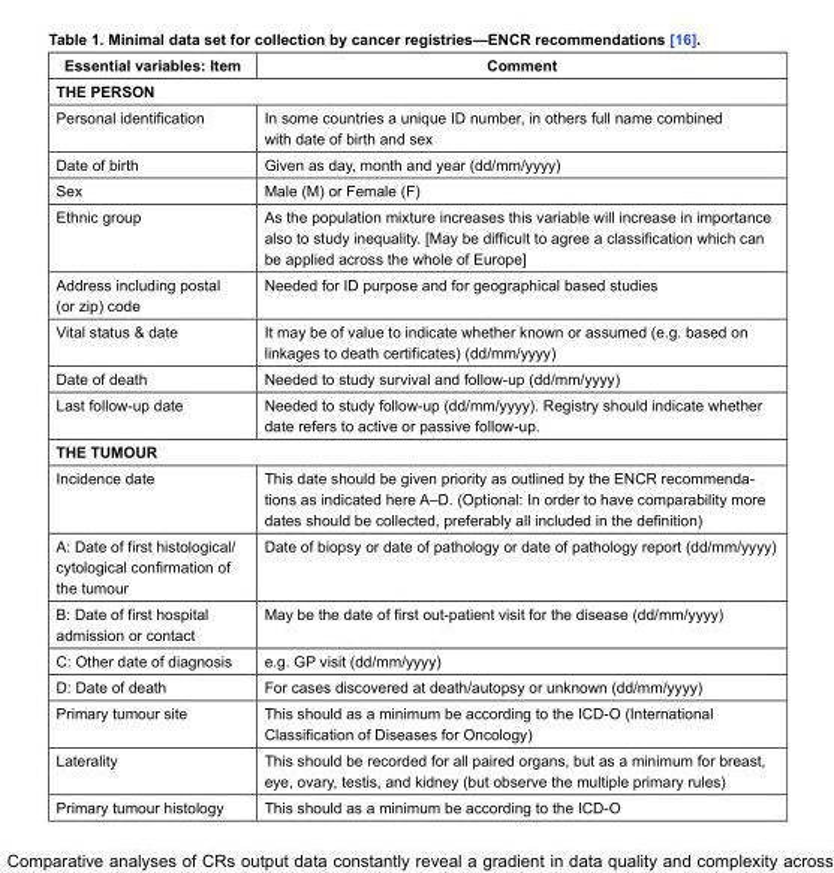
<table><thead><tr><td>Essential variables: Item</td><td>Comment</td></tr></thead><tbody><tr><td colspan="2">THE PERSON</td></tr><tr><td>Personal identification</td><td>In some countries a unique ID number, in others full name combined with date of birth and sex</td></tr><tr><td>Date of birth</td><td>Given as day, month and year (dd/mm/yyyy)</td></tr><tr><td>Sex</td><td>Male (M) or Female (F)</td></tr><tr><td>Ethnic group</td><td>As the population mixture increases this variable will increase in importance also to study inequality. [May be difficult to agree a classification which can be applied across the whole of Europe]</td></tr><tr><td>Address including postal (or zip) code</td><td>Needed for ID purpose and for geographical based studies</td></tr><tr><td>Vital status &amp; date</td><td>It may be of value to indicate whether known or assumed (e.g. based on linkages to death certificates) (dd/mm/yyyy)</td></tr><tr><td>Date of death</td><td>Needed to study survival and follow-up (dd/mm/yyyy)</td></tr><tr><td>Last follow-up date</td><td>Needed to study follow-up (dd/mm/yyyy). Registry should indicate whether date refers to active or passive follow-up.</td></tr><tr><td colspan="2">THE TUMOUR</td></tr><tr><td>Incidence date</td><td>This date should be given priority as outlined by the ENCR recommenda- tions as indicated here A–D. (Optional: In order to have comparability more dates should be collected, preferably all included in the definition)</td></tr><tr><td>A: Date of first histological/ cytological confirmation of the tumour</td><td>Date of biopsy or date of pathology or date of pathology report (dd/mm/yyyy)</td></tr><tr><td>B: Date of first hospital admission or contact</td><td>May be the date of first out-patient visit for the disease (dd/mm/yyyy)</td></tr><tr><td>C: Other date of diagnosis</td><td>e.g. GP visit (dd/mm/yyyy)</td></tr><tr><td>D: Date of death</td><td>For cases discovered at death/autopsy or unknown (dd/mm/yyyy)</td></tr><tr><td>Primary tumour site</td><td>This should as a minimum be according to the ICD-O (International Classification of Diseases for Oncology)</td></tr><tr><td>Laterality</td><td>This should be recorded for all paired organs, but as a minimum for breast, eye, ovary, testis, and kidney (but observe the multiple primary rules)</td></tr><tr><td>Primary tumour histology</td><td>This should as a minimum be according to the ICD-O</td></tr></tbody></table>